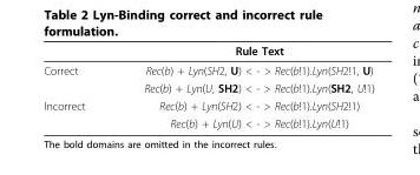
<table><thead><tr><td></td><td>Rule Text</td></tr></thead><tbody><tr><td rowspan="2">Correct</td><td>Rec(b) + Lyn(SH2, U) &lt; - &gt; Rec(b!1).Lyn(SH2!1, U)</td></tr><tr><td>Rec(b) + Lyn(U, SH2) &lt; - &gt; Rec(b!1).Lyn(SH2, U!1)</td></tr><tr><td rowspan="2">Incorrect</td><td>Rec(b) + Lyn(SH2) &lt; - &gt; Rec(b!1).Lyn(SH2!1)</td></tr><tr><td>Rec(b) + Lyn(U) &lt; - &gt; Rec(b!1).Lyn(U!1)</td></tr></tbody></table>